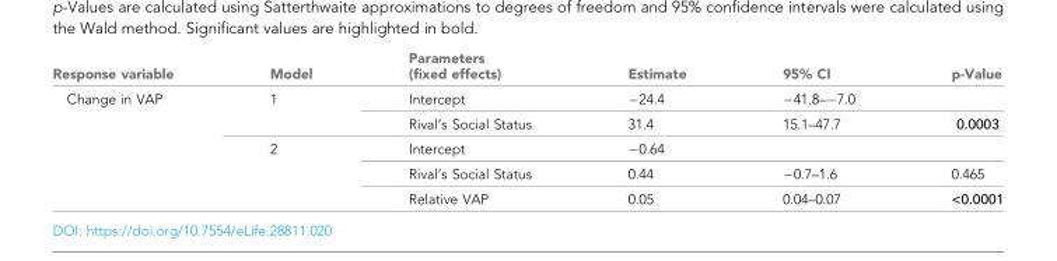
<table><thead><tr><td>Response variable</td><td>Model</td><td>Parameters (fixed effects)</td><td>Estimate</td><td>95% CI</td><td>p-Value</td></tr></thead><tbody><tr><td rowspan="5">Change in VAP</td><td rowspan="2">1</td><td>Intercept</td><td>−24.4</td><td>−41.8–−7.0</td><td></td></tr><tr><td>Rival’s Social Status</td><td>31.4</td><td>15.1–47.7</td><td>0.0003</td></tr><tr><td rowspan="3">2</td><td>Intercept</td><td>−0.64</td><td></td><td></td></tr><tr><td>Rival’s Social Status</td><td>0.44</td><td>−0.7–1.6</td><td>0.465</td></tr><tr><td>Relative VAP</td><td>0.05</td><td>0.04–0.07</td><td>&lt;0.0001</td></tr></tbody></table>